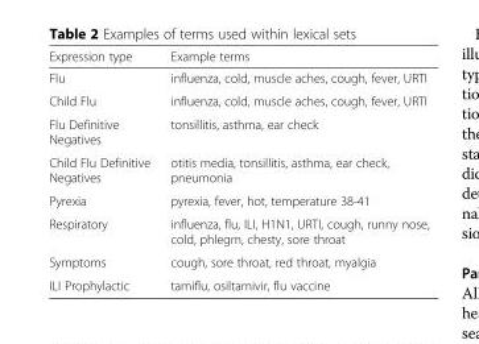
<table><thead><tr><td>Expression type</td><td>Example terms</td></tr></thead><tbody><tr><td>Flu</td><td>influenza, cold, muscle aches, cough, fever, URTI</td></tr><tr><td>Child Flu</td><td>influenza, cold, muscle aches, cough, fever, URTI</td></tr><tr><td>Flu Definitive Negatives</td><td>tonsillitis, asthma, ear check</td></tr><tr><td>Child Flu Definitive Negatives</td><td>otitis media, tonsillitis, asthma, ear check, pneumonia</td></tr><tr><td>Pyrexia</td><td>pyrexia, fever, hot, temperature 38-41</td></tr><tr><td>Respiratory</td><td>influenza, flu, ILI, H1N1, URTI, cough, runny nose, cold, phlegm, chesty, sore throat</td></tr><tr><td>Symptoms</td><td>cough, sore throat, red throat, myalgia</td></tr><tr><td>ILI Prophylactic</td><td>tamiflu, osiltamivir, flu vaccine</td></tr></tbody></table>